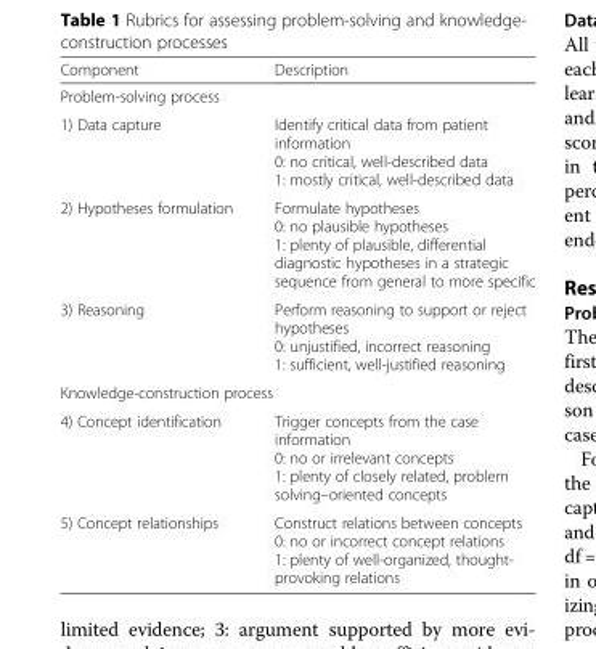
<table><thead><tr><td>Component</td><td>Description</td></tr></thead><tbody><tr><td colspan="2">Problem-solving process</td></tr><tr><td>1) Data capture</td><td>Identify critical data from patient information 0: no critical, well-described data 1: mostly critical, well-described data</td></tr><tr><td>2) Hypotheses formulation</td><td>Formulate hypotheses 0: no plausible hypotheses 1: plenty of plausible, differential diagnostic hypotheses in a strategic sequence from general to more specific</td></tr><tr><td>3) Reasoning</td><td>Perform reasoning to support or reject hypotheses 0: unjustified, incorrect reasoning 1: sufficient, well-justified reasoning</td></tr><tr><td colspan="2">Knowledge-construction process</td></tr><tr><td>4) Concept identification</td><td>Trigger concepts from the case information 0: no or irrelevant concepts 1: plenty of closely related, problem solving–oriented concepts</td></tr><tr><td>5) Concept relationships</td><td>Construct relations between concepts 0: no or incorrect concept relations 1: plenty of well-organized, thought- provoking relations</td></tr></tbody></table>